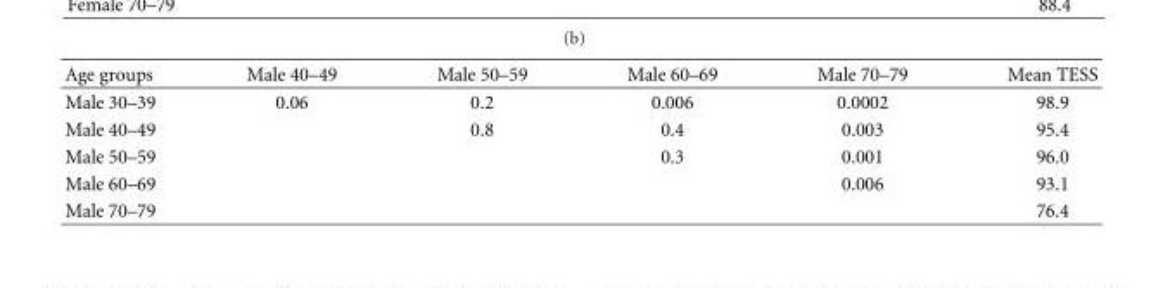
<table><thead><tr><td>Age groups</td><td>Male 40–49</td><td>Male 50–59</td><td>Male 60–69</td><td>Male 70–79</td><td>Mean TESS</td></tr></thead><tbody><tr><td>Male 30–39</td><td>0.06</td><td>0.2</td><td>0.006</td><td>0.0002</td><td>98.9</td></tr><tr><td>Male 40–49</td><td></td><td>0.8</td><td>0.4</td><td>0.003</td><td>95.4</td></tr><tr><td>Male 50–59</td><td></td><td></td><td>0.3</td><td>0.001</td><td>96.0</td></tr><tr><td>Male 60–69</td><td></td><td></td><td></td><td>0.006</td><td>93.1</td></tr><tr><td>Male 70–79</td><td></td><td></td><td></td><td></td><td>76.4</td></tr></tbody></table>